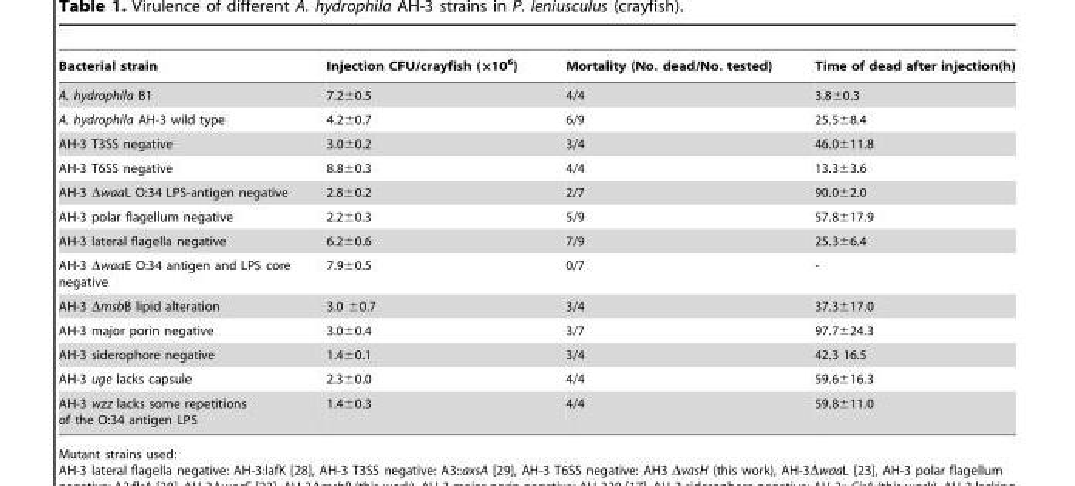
<table><thead><tr><td>Bacterial strain</td><td>Injection CFU/crayfish (×10<sup>6</sup>)</td><td>Mortality (No. dead/No. tested)</td><td>Time of dead after injection(h)</td></tr></thead><tbody><tr><td>A. hydrophila B1</td><td>7.2±0.5</td><td>4/4</td><td>3.8±0.3</td></tr><tr><td>A. hydrophila AH-3 wild type</td><td>4.2±0.7</td><td>6/9</td><td>25.5±8.4</td></tr><tr><td>AH-3 T3SS negative</td><td>3.0±0.2</td><td>3/4</td><td>46.0±11.8</td></tr><tr><td>AH-3 T6SS negative</td><td>8.8±0.3</td><td>4/4</td><td>13.3±3.6</td></tr><tr><td>AH-3 ΔwaaL O:34 LPS-antigen negative</td><td>2.8±0.2</td><td>2/7</td><td>90.0±2.0</td></tr><tr><td>AH-3 polar flagellum negative</td><td>2.2±0.3</td><td>5/9</td><td>57.8±17.9</td></tr><tr><td>AH-3 lateral flagella negative</td><td>6.2±0.6</td><td>7/9</td><td>25.3±6.4</td></tr><tr><td>AH-3 ΔwaaE O:34 antigen and LPS core negative</td><td>7.9±0.5</td><td>0/7</td><td>-</td></tr><tr><td>AH-3 ΔmsbB lipid alteration</td><td>3.0 ±0.7</td><td>3/4</td><td>37.3±17.0</td></tr><tr><td>AH-3 major porin negative</td><td>3.0±0.4</td><td>3/7</td><td>97.7±24.3</td></tr><tr><td>AH-3 siderophore negative</td><td>1.4±0.1</td><td>3/4</td><td>42.3 16.5</td></tr><tr><td>AH-3 uge lacks capsule</td><td>2.3±0.0</td><td>4/4</td><td>59.6±16.3</td></tr><tr><td>AH-3 wzz lacks some repetitions of the O:34 antigen LPS</td><td>1.4±0.3</td><td>4/4</td><td>59.8±11.0</td></tr></tbody></table>